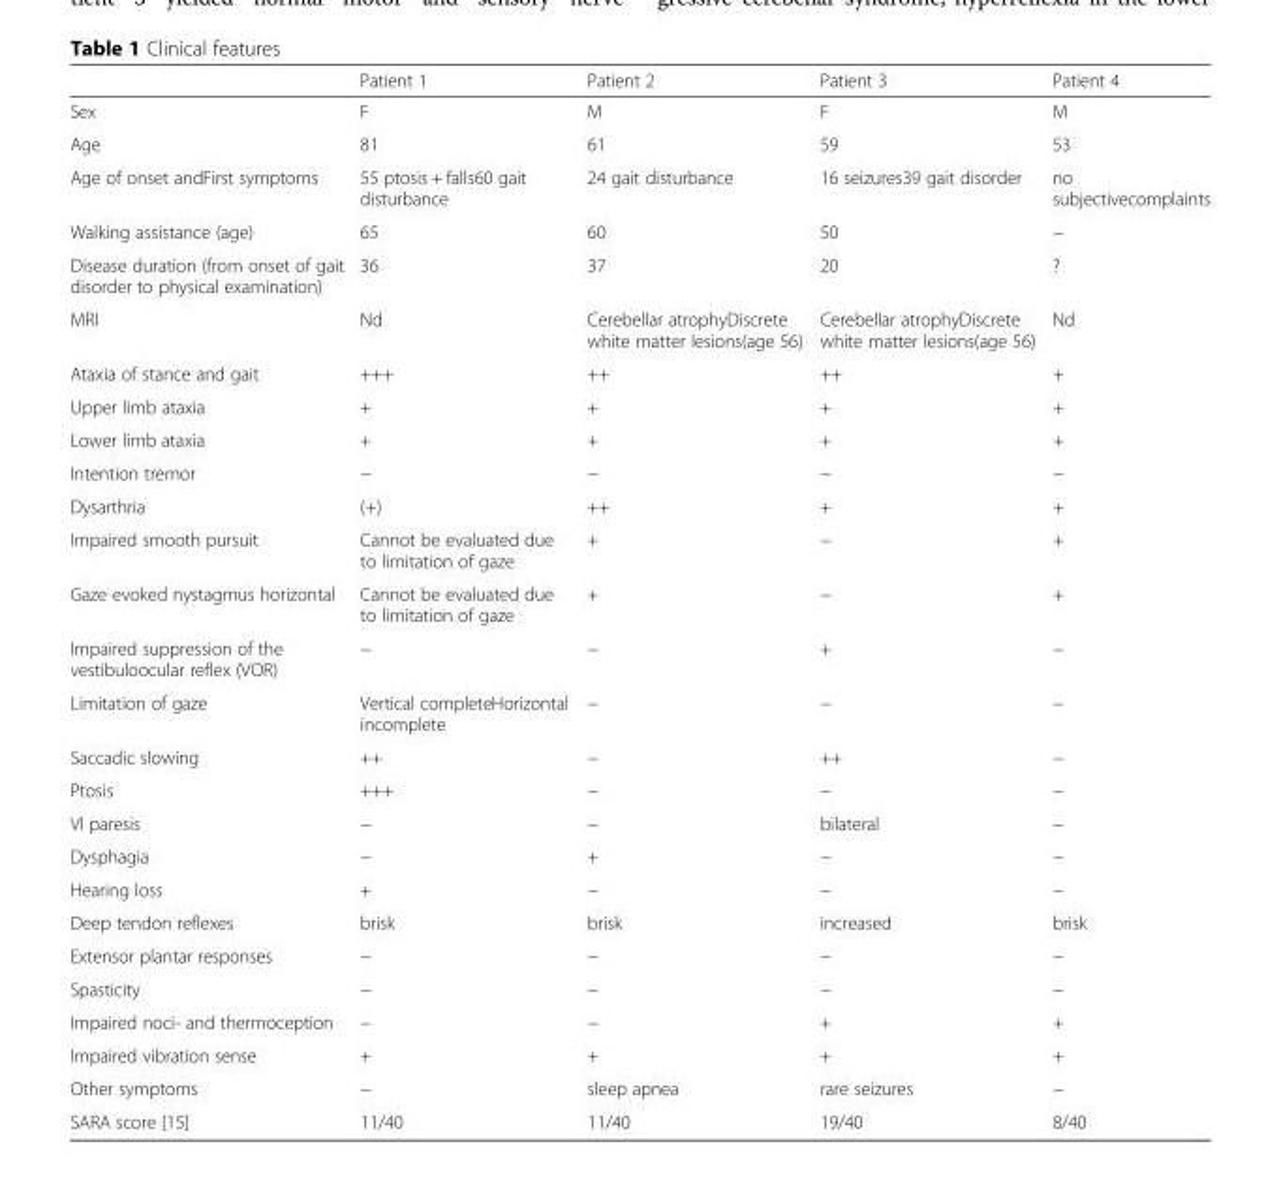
<table><thead><tr><td></td><td>Patient 1</td><td>Patient 2</td><td>Patient 3</td><td>Patient 4</td></tr></thead><tbody><tr><td>Sex</td><td>F</td><td>M</td><td>F</td><td>M</td></tr><tr><td>Age</td><td>81</td><td>61</td><td>59</td><td>53</td></tr><tr><td>Age of onset andFirst symptoms</td><td>55 ptosis + falls60 gait disturbance</td><td>24 gait disturbance</td><td>16 seizures39 gait disorder</td><td>no subjectivecomplaints</td></tr><tr><td>Walking assistance (age)</td><td>65</td><td>60</td><td>50</td><td>−</td></tr><tr><td>Disease duration (from onset of gait disorder to physical examination)</td><td>36</td><td>37</td><td>20</td><td>?</td></tr><tr><td>MRI</td><td>Nd</td><td>Cerebellar atrophyDiscrete white matter lesions(age 56)</td><td>Cerebellar atrophyDiscrete white matter lesions(age 56)</td><td>Nd</td></tr><tr><td>Ataxia of stance and gait</td><td>+++</td><td>++</td><td>++</td><td>+</td></tr><tr><td>Upper limb ataxia</td><td>+</td><td>+</td><td>+</td><td>+</td></tr><tr><td>Lower limb ataxia</td><td>+</td><td>+</td><td>+</td><td>+</td></tr><tr><td>Intention tremor</td><td>−</td><td>−</td><td>−</td><td>−</td></tr><tr><td>Dysarthria</td><td>(+)</td><td>++</td><td>+</td><td>+</td></tr><tr><td>Impaired smooth pursuit</td><td>Cannot be evaluated due to limitation of gaze</td><td>+</td><td>−</td><td>+</td></tr><tr><td>Gaze evoked nystagmus horizontal</td><td>Cannot be evaluated due to limitation of gaze</td><td>+</td><td>−</td><td>+</td></tr><tr><td>Impaired suppression of the vestibuloocular reflex (VOR)</td><td>−</td><td>−</td><td>+</td><td>−</td></tr><tr><td>Limitation of gaze</td><td>Vertical completeHorizontal incomplete</td><td>−</td><td>−</td><td>−</td></tr><tr><td>Saccadic slowing</td><td>++</td><td>−</td><td>++</td><td>−</td></tr><tr><td>Ptosis</td><td>+++</td><td>−</td><td>−</td><td>−</td></tr><tr><td>VI paresis</td><td>−</td><td>−</td><td>bilateral</td><td>−</td></tr><tr><td>Dysphagia</td><td>−</td><td>+</td><td>−</td><td>−</td></tr><tr><td>Hearing loss</td><td>+</td><td>−</td><td>−</td><td>−</td></tr><tr><td>Deep tendon reflexes</td><td>brisk</td><td>brisk</td><td>increased</td><td>brisk</td></tr><tr><td>Extensor plantar responses</td><td>−</td><td>−</td><td>−</td><td>−</td></tr><tr><td>Spasticity</td><td>−</td><td>−</td><td>−</td><td>−</td></tr><tr><td>Impaired noci- and thermoception</td><td>−</td><td>−</td><td>+</td><td>+</td></tr><tr><td>Impaired vibration sense</td><td>+</td><td>+</td><td>+</td><td>+</td></tr><tr><td>Other symptoms</td><td>−</td><td>sleep apnea</td><td>rare seizures</td><td>−</td></tr><tr><td>SARA score [15]</td><td>11/40</td><td>11/40</td><td>19/40</td><td>8/40</td></tr></tbody></table>